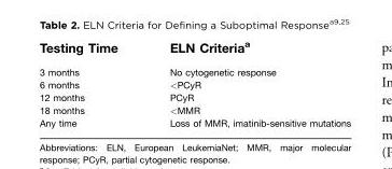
<table><thead><tr><td>Testing Time</td><td>ELN Criteria<sup>a</sup></td></tr></thead><tbody><tr><td>3 months</td><td>No cytogenetic response</td></tr><tr><td>6 months</td><td>&lt;PCyR</td></tr><tr><td>12 months</td><td>PCyR</td></tr><tr><td>18 months</td><td>&lt;MMR</td></tr><tr><td>Any time</td><td>Loss of MMR, imatinib-sensitive mutations</td></tr></tbody></table>